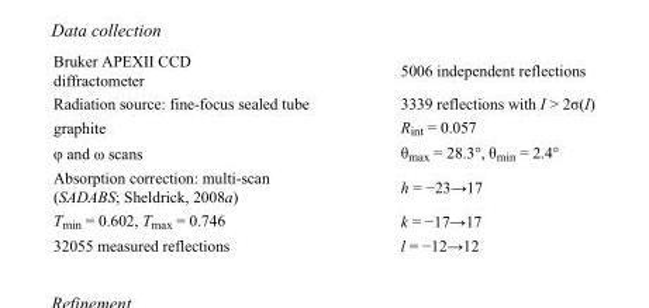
<table><tbody><tr><td>Bruker APEXII CCD diffractometer</td><td>5006 independent reflections</td></tr><tr><td>Radiation source: fine-focus sealed tube</td><td>3339 reflections with I &gt; 2σ(I)</td></tr><tr><td>graphite</td><td>R<sub>int</sub> = 0.057</td></tr><tr><td>φ and ω scans</td><td>θ<sub>max</sub> = 28.3°, θ<sub>min</sub> = 2.4°</td></tr><tr><td>Absorption correction: multi-scan (SADABS; Sheldrick, 2008a)</td><td>h = −23→17</td></tr><tr><td>T<sub>min</sub> = 0.602, T<sub>max</sub> = 0.746</td><td>k = −17→17</td></tr><tr><td>32055 measured reflections</td><td>l = −12→12</td></tr></tbody></table>